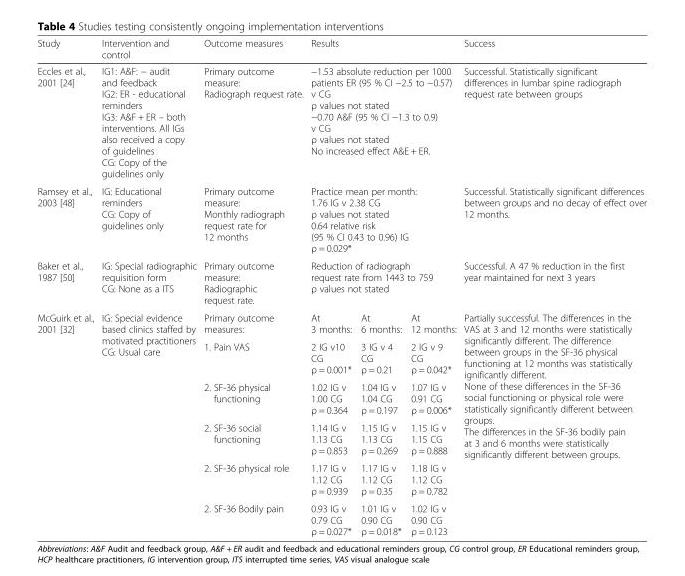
<table><thead><tr><td>Study</td><td>Intervention and control</td><td>Outcome measures</td><td colspan="3">Results</td><td>Success</td></tr></thead><tbody><tr><td>Eccles et al., 2001 [24]</td><td>IG1: A&amp;F: − audit and feedback IG2: ER - educational reminders IG3: A&amp;F + ER – both interventions. All IGs also received a copy of guidelines CG: Copy of the guidelines only</td><td>Primary outcome measure: Radiograph request rate.</td><td colspan="3">−1.53 absolute reduction per 1000 patients ER (95 % CI −2.5 to −0.57) v CG ρ values not stated −0.70 A&amp;F (95 % CI −1.3 to 0.9) v CG ρ values not stated No increased effect A&amp;E + ER.</td><td>Successful. Statistically significant differences in lumbar spine radiograph request rate between groups</td></tr><tr><td>Ramsey et al., 2003 [48]</td><td>IG: Educational reminders CG: Copy of guidelines only</td><td>Primary outcome measure: Monthly radiograph request rate for 12 months</td><td colspan="3">Practice mean per month: 1.76 IG v 2.38 CG ρ values not stated 0.64 relative risk (95 % CI 0.43 to 0.96) IG ρ = 0.029*</td><td>Successful. Statistically significant differences between groups and no decay of effect over 12 months.</td></tr><tr><td>Baker et al., 1987 [50]</td><td>IG: Special radiographic requisition form CG: None as a ITS</td><td>Primary outcome measure: Radiographic request rate.</td><td colspan="3">Reduction of radiograph request rate from 1443 to 759 ρ values not stated</td><td>Successful. A 47 % reduction in the first year maintained for next 3 years</td></tr><tr><td rowspan="6">McGuirk et al., 2001 [32]</td><td rowspan="6">IG: Special evidence based clinics staffed by motivated practitioners CG: Usual care</td><td>Primary outcome measures:</td><td>At 3 months:</td><td>At 6 months:</td><td>At 12 months:</td><td rowspan="6">Partially successful. The differences in the VAS at 3 and 12 months were statistically significantly different. The difference between groups in the SF-36 physical functioning at 12 months was statistically ignificantly different. None of these differences in the SF-36 social functioning or physical role were statistically significantly different between groups. The differences in the SF-36 bodily pain at 3 and 6 months were statistically significantly different between groups.</td></tr><tr><td>1. Pain VAS</td><td>2 IG v10 CG ρ = 0.001*</td><td>3 IG v 4 CG ρ = 0.21</td><td>2 IG v 9 CG ρ = 0.042*</td></tr><tr><td>2. SF-36 physical functioning</td><td>1.02 IG v 1.00 CG ρ = 0.364</td><td>1.04 IG v 1.04 CG ρ = 0.197</td><td>1.07 IG v 0.91 CG ρ = 0.006*</td></tr><tr><td>2. SF-36 social functioning</td><td>1.14 IG v 1.13 CG ρ = 0.853</td><td>1.15 IG v 1.13 CG ρ = 0.269</td><td>1.15 IG v 1.15 CG ρ = 0.888</td></tr><tr><td>2. SF-36 physical role</td><td>1.17 IG v 1.12 CG ρ = 0.939</td><td>1.17 IG v 1.12 CG ρ = 0.35</td><td>1.18 IG v 1.12 CG ρ = 0.782</td></tr><tr><td>2. SF-36 Bodily pain</td><td>0.93 IG v 0.79 CG ρ = 0.027*</td><td>1.01 IG v 0.90 CG ρ = 0.018*</td><td>1.02 IG v 0.90 CG ρ = 0.123</td></tr></tbody></table>